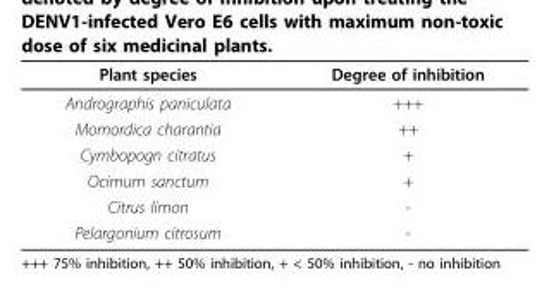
<table><thead><tr><td>Plant species</td><td>Degree of inhibition</td></tr></thead><tbody><tr><td>Andrographis paniculata</td><td>+++</td></tr><tr><td>Momordica charantia</td><td>++</td></tr><tr><td>Cymbopogn citratus</td><td>+</td></tr><tr><td>Ocimum sanctum</td><td>+</td></tr><tr><td>Citrus limon</td><td>-</td></tr><tr><td>Pelargonium citrosum</td><td>-</td></tr></tbody></table>